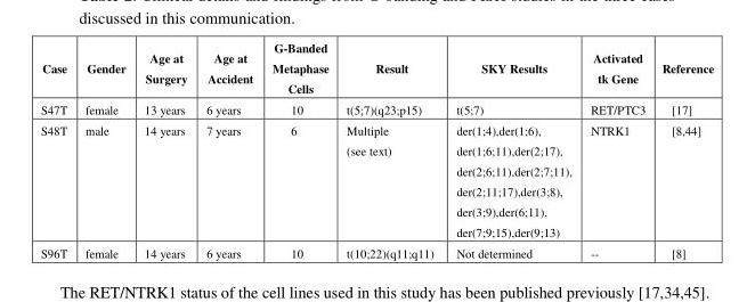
<table><thead><tr><td>Case</td><td>Gender</td><td>Age at Surgery</td><td>Age at Accident</td><td>G-Banded Metaphase Cells</td><td>Result</td><td>SKY Results</td><td>Activated tk Gene</td><td>Reference</td></tr></thead><tbody><tr><td>S47T</td><td>female</td><td>13 years</td><td>6 years</td><td>10</td><td>t(5;7)(q23;p15)</td><td>t(5;7)</td><td>RET/PTC3</td><td>[17]</td></tr><tr><td>S48T</td><td>male</td><td>14 years</td><td>7 years</td><td>6</td><td>Multiple (see text)</td><td>der(1;4),der(1;6), der(1;6;11),der(2;17), der(2;6;11),der(2;7;11), der(2;11;17),der(3;8), der(3;9),der(6;11), der(7;9;15),der(9;13)</td><td>NTRK1</td><td>[8,44]</td></tr><tr><td>S96T</td><td>female</td><td>14 years</td><td>6 years</td><td>10</td><td>t(10;22)(q11;q11)</td><td>Not determined</td><td>--</td><td>[8]</td></tr></tbody></table>